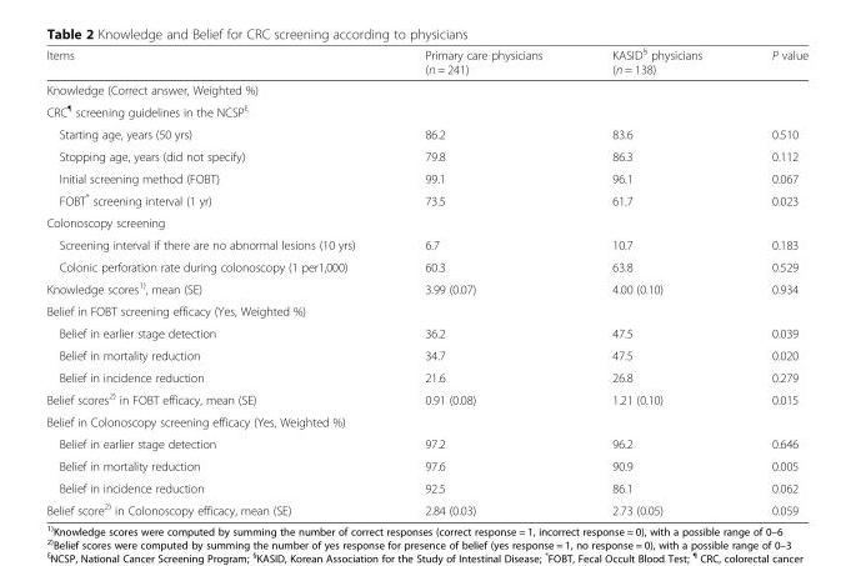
<table><thead><tr><td>Items</td><td>Primary care physicians (n = 241)</td><td>KASID<sup>§</sup> physicians (n = 138)</td><td>P value</td></tr></thead><tbody><tr><td colspan="4">Knowledge (Correct answer, Weighted %)</td></tr><tr><td colspan="4">CRC<sup>¶</sup> screening guidelines in the NCSP<sup>ξ</sup></td></tr><tr><td>Starting age, years (50 yrs)</td><td>86.2</td><td>83.6</td><td>0.510</td></tr><tr><td>Stopping age, years (did not specify)</td><td>79.8</td><td>86.3</td><td>0.112</td></tr><tr><td>Initial screening method (FOBT)</td><td>99.1</td><td>96.1</td><td>0.067</td></tr><tr><td>FOBT* screening interval (1 yr)</td><td>73.5</td><td>61.7</td><td>0.023</td></tr><tr><td colspan="4">Colonoscopy screening</td></tr><tr><td>Screening interval if there are no abnormal lesions (10 yrs)</td><td>6.7</td><td>10.7</td><td>0.183</td></tr><tr><td>Colonic perforation rate during colonoscopy (1 per1,000)</td><td>60.3</td><td>63.8</td><td>0.529</td></tr><tr><td>Knowledge scores<sup>1)</sup>, mean (SE)</td><td>3.99 (0.07)</td><td>4.00 (0.10)</td><td>0.934</td></tr><tr><td colspan="4">Belief in FOBT screening efficacy (Yes, Weighted %)</td></tr><tr><td>Belief in earlier stage detection</td><td>36.2</td><td>47.5</td><td>0.039</td></tr><tr><td>Belief in mortality reduction</td><td>34.7</td><td>47.5</td><td>0.020</td></tr><tr><td>Belief in incidence reduction</td><td>21.6</td><td>26.8</td><td>0.279</td></tr><tr><td>Belief scores<sup>2)</sup> in FOBT efficacy, mean (SE)</td><td>0.91 (0.08)</td><td>1.21 (0.10)</td><td>0.015</td></tr><tr><td colspan="4">Belief in Colonoscopy screening efficacy (Yes, Weighted %)</td></tr><tr><td>Belief in earlier stage detection</td><td>97.2</td><td>96.2</td><td>0.646</td></tr><tr><td>Belief in mortality reduction</td><td>97.6</td><td>90.9</td><td>0.005</td></tr><tr><td>Belief in incidence reduction</td><td>92.5</td><td>86.1</td><td>0.062</td></tr><tr><td>Belief score<sup>2)</sup> in Colonoscopy efficacy, mean (SE)</td><td>2.84 (0.03)</td><td>2.73 (0.05)</td><td>0.059</td></tr></tbody></table>